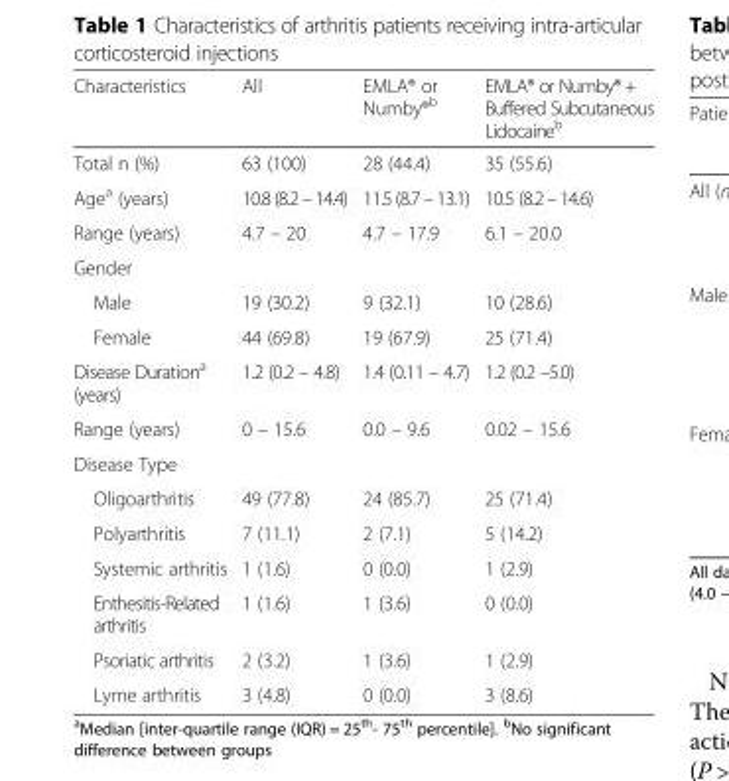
<table><thead><tr><td>Characteristics</td><td>All</td><td>EMLA® or Numby®<sup>b</sup></td><td>EMLA® or Numby® + Buffered Subcutaneous Lidocaine<sup>b</sup></td></tr></thead><tbody><tr><td>Total n (%)</td><td>63 (100)</td><td>28 (44.4)</td><td>35 (55.6)</td></tr><tr><td>Age<sup>a</sup> (years)</td><td>10.8 (8.2– 14.4)</td><td>11.5 (8.7 – 13.1)</td><td>10.5 (8.2 – 14.6)</td></tr><tr><td>Range (years)</td><td>4.7 – 20</td><td>4.7 – 17.9</td><td>6.1 – 20.0</td></tr><tr><td colspan="4">Gender</td></tr><tr><td>Male</td><td>19 (30.2)</td><td>9 (32.1)</td><td>10 (28.6)</td></tr><tr><td>Female</td><td>44 (69.8)</td><td>19 (67.9)</td><td>25 (71.4)</td></tr><tr><td>Disease Duration<sup>a</sup> (years)</td><td>1.2 (0.2 – 4.8)</td><td>1.4 (0.11 – 4.7)</td><td>1.2 (0.2 –5.0)</td></tr><tr><td>Range (years)</td><td>0 – 15.6</td><td>0.0 – 9.6</td><td>0.02 – 15.6</td></tr><tr><td colspan="4">Disease Type</td></tr><tr><td>Oligoarthritis</td><td>49 (77.8)</td><td>24 (85.7)</td><td>25 (71.4)</td></tr><tr><td>Polyarthritis</td><td>7 (11.1)</td><td>2 (7.1)</td><td>5 (14.2)</td></tr><tr><td>Systemic arthritis</td><td>1 (1.6)</td><td>0 (0.0)</td><td>1 (2.9)</td></tr><tr><td>Enthesitis-Related arthritis</td><td>1 (1.6)</td><td>1 (3.6)</td><td>0 (0.0)</td></tr><tr><td>Psoriatic arthritis</td><td>2 (3.2)</td><td>1 (3.6)</td><td>1 (2.9)</td></tr><tr><td>Lyme arthritis</td><td>3 (4.8)</td><td>0 (0.0)</td><td>3 (8.6)</td></tr></tbody></table>